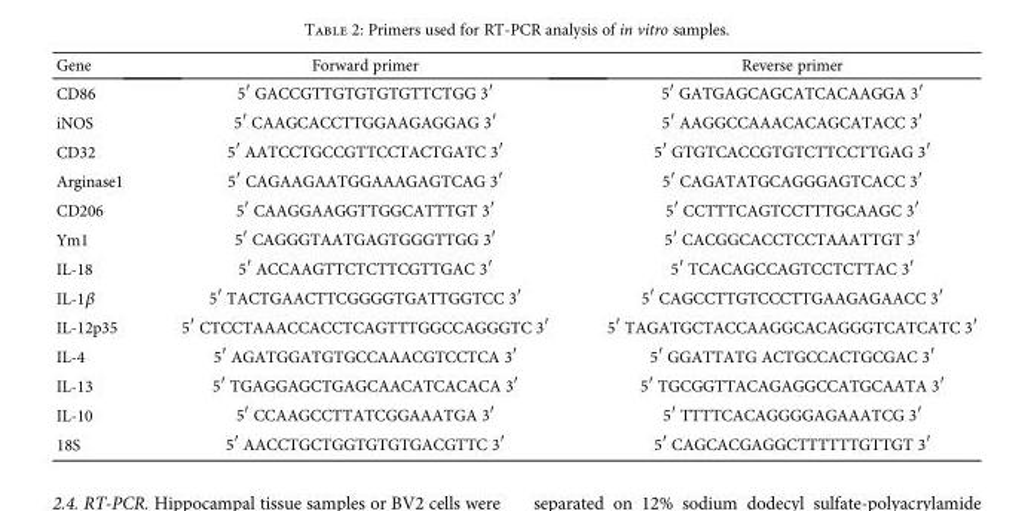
<table><thead><tr><td>Gene</td><td>Forward primer</td><td>Reverse primer</td></tr></thead><tbody><tr><td>CD86</td><td>5′ GACCGTTGTGTGTGTTCTGG 3′</td><td>5′ GATGAGCAGCATCACAAGGA 3′</td></tr><tr><td>iNOS</td><td>5′ CAAGCACCTTGGAAGAGGAG 3′</td><td>5′ AAGGCCAAACACAGCATACC 3′</td></tr><tr><td>CD32</td><td>5′ AATCCTGCCGTTCCTACTGATC 3′</td><td>5′ GTGTCACCGTGTCTTCCTTGAG 3′</td></tr><tr><td>Arginase1</td><td>5′ CAGAAGAATGGAAAGAGTCAG 3′</td><td>5′ CAGATATGCAGGGAGTCACC 3′</td></tr><tr><td>CD206</td><td>5′ CAAGGAAGGTTGGCATTTGT 3′</td><td>5′ CCTTTCAGTCCTTTGCAAGC 3′</td></tr><tr><td>Ym1</td><td>5′ CAGGGTAATGAGTGGGTTGG 3′</td><td>5′ CACGGCACCTCCTAAATTGT 3′</td></tr><tr><td>IL-18</td><td>5′ ACCAAGTTCTCTTCGTTGAC 3′</td><td>5′ TCACAGCCAGTCCTCTTAC 3′</td></tr><tr><td>IL-1β</td><td>5′ TACTGAACTTCGGGGTGATTGGTCC 3′</td><td>5′ CAGCCTTGTCCCTTGAAGAGAACC 3′</td></tr><tr><td>IL-12p35</td><td>5′ CTCCTAAACCACCTCAGTTTGGCCAGGGTC 3′</td><td>5′ TAGATGCTACCAAGGCACAGGGTCATCATC 3′</td></tr><tr><td>IL-4</td><td>5′ AGATGGATGTGCCAAACGTCCTCA 3′</td><td>5′ GGATTATG ACTGCCACTGCGAC 3′</td></tr><tr><td>IL-13</td><td>5′ TGAGGAGCTGAGCAACATCACACA 3′</td><td>5′ TGCGGTTACAGAGGCCATGCAATA 3′</td></tr><tr><td>IL-10</td><td>5′ CCAAGCCTTATCGGAAATGA 3′</td><td>5′ TTTTCACAGGGGAGAAATCG 3′</td></tr><tr><td>18S</td><td>5′ AACCTGCTGGTGTGTGACGTTC 3′</td><td>5′ CAGCACGAGGCTTTTTTGTTGT 3′</td></tr></tbody></table>